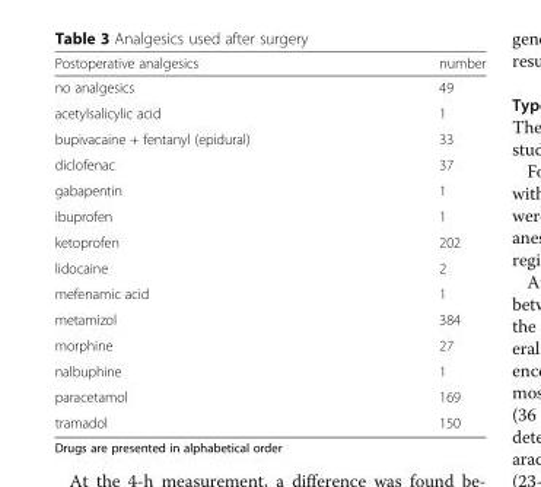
<table><thead><tr><td>Postoperative analgesics</td><td>number</td></tr></thead><tbody><tr><td>no analgesics</td><td>49</td></tr><tr><td>acetylsalicylic acid</td><td>1</td></tr><tr><td>bupivacaine + fentanyl (epidural)</td><td>33</td></tr><tr><td>diclofenac</td><td>37</td></tr><tr><td>gabapentin</td><td>1</td></tr><tr><td>ibuprofen</td><td>1</td></tr><tr><td>ketoprofen</td><td>202</td></tr><tr><td>lidocaine</td><td>2</td></tr><tr><td>mefenamic acid</td><td>1</td></tr><tr><td>metamizol</td><td>384</td></tr><tr><td>morphine</td><td>27</td></tr><tr><td>nalbuphine</td><td>1</td></tr><tr><td>paracetamol</td><td>169</td></tr><tr><td>tramadol</td><td>150</td></tr></tbody></table>